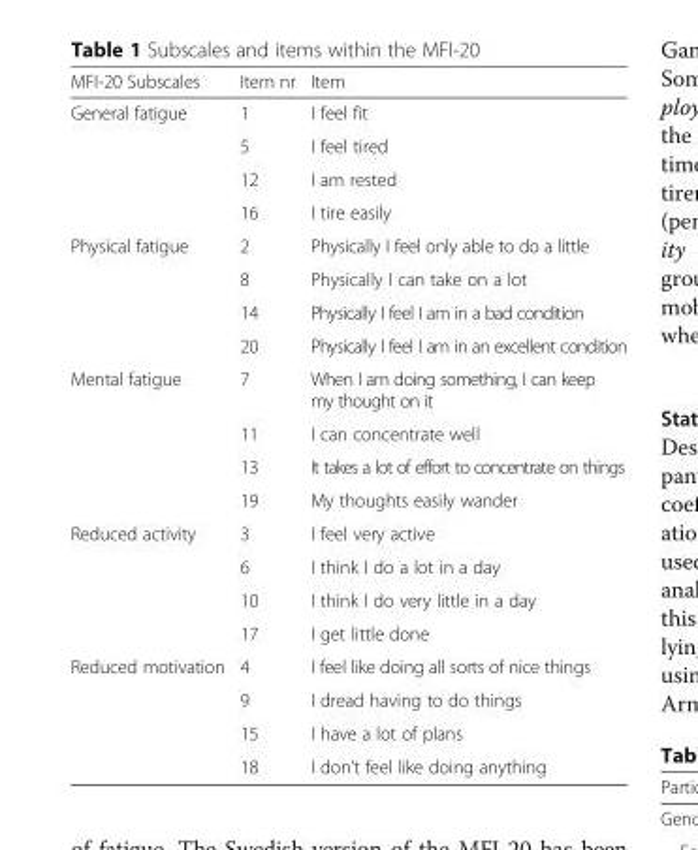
<table><thead><tr><td>MFI-20 Subscales</td><td>Item nr</td><td>Item</td></tr></thead><tbody><tr><td rowspan="4">General fatigue</td><td>1</td><td>I feel fit</td></tr><tr><td>5</td><td>I feel tired</td></tr><tr><td>12</td><td>I am rested</td></tr><tr><td>16</td><td>I tire easily</td></tr><tr><td rowspan="4">Physical fatigue</td><td>2</td><td>Physically I feel only able to do a little</td></tr><tr><td>8</td><td>Physically I can take on a lot</td></tr><tr><td>14</td><td>Physically I feel I am in a bad condition</td></tr><tr><td>20</td><td>Physically I feel I am in an excellent condition</td></tr><tr><td rowspan="4">Mental fatigue</td><td>7</td><td>When I am doing something, I can keep my thought on it</td></tr><tr><td>11</td><td>I can concentrate well</td></tr><tr><td>13</td><td>It takes a lot of effort to concentrate on things</td></tr><tr><td>19</td><td>My thoughts easily wander</td></tr><tr><td rowspan="4">Reduced activity</td><td>3</td><td>I feel very active</td></tr><tr><td>6</td><td>I think I do a lot in a day</td></tr><tr><td>10</td><td>I think I do very little in a day</td></tr><tr><td>17</td><td>I get little done</td></tr><tr><td rowspan="4">Reduced motivation</td><td>4</td><td>I feel like doing all sorts of nice things</td></tr><tr><td>9</td><td>I dread having to do things</td></tr><tr><td>15</td><td>I have a lot of plans</td></tr><tr><td>18</td><td>I don’t feel like doing anything</td></tr></tbody></table>